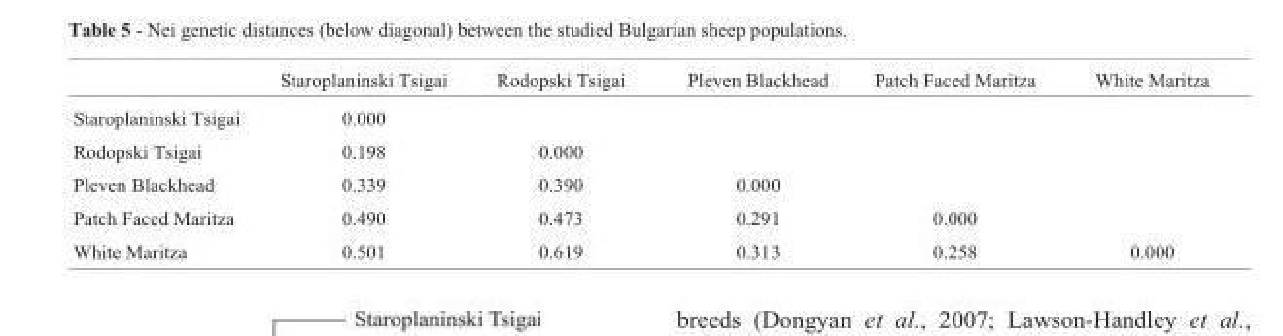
<table><thead><tr><td></td><td>Staroplaninski Tsigai</td><td>Rodopski Tsigai</td><td>Pleven Blackhead</td><td>Patch Faced Maritza</td><td>White Maritza</td></tr></thead><tbody><tr><td>Staroplaninski Tsigai</td><td>0.000</td><td></td><td></td><td></td><td></td></tr><tr><td>Rodopski Tsigai</td><td>0.198</td><td>0.000</td><td></td><td></td><td></td></tr><tr><td>Pleven Blackhead</td><td>0.339</td><td>0.390</td><td>0.000</td><td></td><td></td></tr><tr><td>Patch Faced Maritza</td><td>0.490</td><td>0.473</td><td>0.291</td><td>0.000</td><td></td></tr><tr><td>White Maritza</td><td>0.501</td><td>0.619</td><td>0.313</td><td>0.258</td><td>0.000</td></tr></tbody></table>